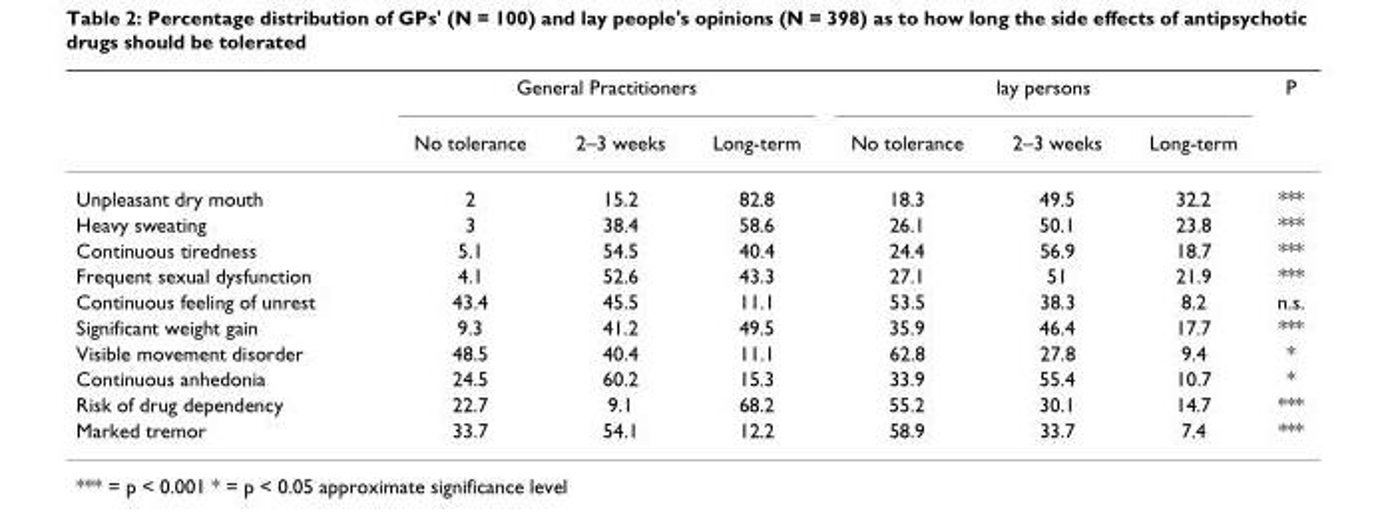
<table><thead><tr><td rowspan="2"></td><td colspan="3">General Practitioners</td><td colspan="3">lay persons</td><td rowspan="2">P</td></tr><tr><td>No tolerance</td><td>2–3 weeks</td><td>Long-term</td><td>No tolerance</td><td>2–3 weeks</td><td>Long-term</td></tr></thead><tbody><tr><td>Unpleasant dry mouth</td><td>2</td><td>15.2</td><td>82.8</td><td>18.3</td><td>49.5</td><td>32.2</td><td>***</td></tr><tr><td>Heavy sweating</td><td>3</td><td>38.4</td><td>58.6</td><td>26.1</td><td>50.1</td><td>23.8</td><td>***</td></tr><tr><td>Continuous tiredness</td><td>5.1</td><td>54.5</td><td>40.4</td><td>24.4</td><td>56.9</td><td>18.7</td><td>***</td></tr><tr><td>Frequent sexual dysfunction</td><td>4.1</td><td>52.6</td><td>43.3</td><td>27.1</td><td>51</td><td>21.9</td><td>***</td></tr><tr><td>Continuous feeling of unrest</td><td>43.4</td><td>45.5</td><td>11.1</td><td>53.5</td><td>38.3</td><td>8.2</td><td>n.s.</td></tr><tr><td>Significant weight gain</td><td>9.3</td><td>41.2</td><td>49.5</td><td>35.9</td><td>46.4</td><td>17.7</td><td>***</td></tr><tr><td>Visible movement disorder</td><td>48.5</td><td>40.4</td><td>11.1</td><td>62.8</td><td>27.8</td><td>9.4</td><td>*</td></tr><tr><td>Continuous anhedonia</td><td>24.5</td><td>60.2</td><td>15.3</td><td>33.9</td><td>55.4</td><td>10.7</td><td>*</td></tr><tr><td>Risk of drug dependency</td><td>22.7</td><td>9.1</td><td>68.2</td><td>55.2</td><td>30.1</td><td>14.7</td><td>***</td></tr><tr><td>Marked tremor</td><td>33.7</td><td>54.1</td><td>12.2</td><td>58.9</td><td>33.7</td><td>7.4</td><td>***</td></tr></tbody></table>